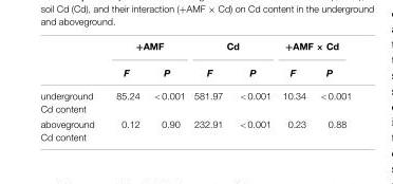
<table><thead><tr><td rowspan="2"></td><td colspan="2">+AMF</td><td colspan="2">Cd</td><td colspan="2">+AMF × Cd</td></tr><tr><td>F</td><td>P</td><td>F</td><td>P</td><td>F</td><td>P</td></tr></thead><tbody><tr><td>underground Cd content</td><td>85.24</td><td>&lt;0.001</td><td>581.97</td><td>&lt;0.001</td><td>10.34</td><td>&lt;0.001</td></tr><tr><td>aboveground Cd content</td><td>0.12</td><td>0.90</td><td>232.91</td><td>&lt;0.001</td><td>0.23</td><td>0.88</td></tr></tbody></table>